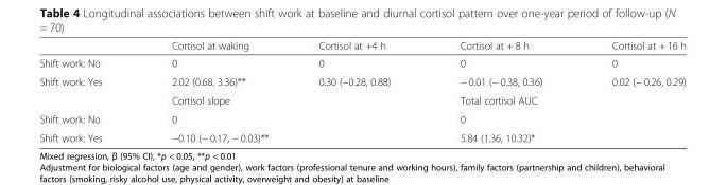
<table><thead><tr><td></td><td>Cortisol at waking</td><td>Cortisol at +4 h</td><td>Cortisol at + 8 h</td><td>Cortisol at + 16 h</td></tr></thead><tbody><tr><td>Shift work: No</td><td>0</td><td>0</td><td>0</td><td>0</td></tr><tr><td rowspan="2">Shift work: Yes</td><td>2.02 (0.68, 3.36)**</td><td>0.30 (−0.28, 0.88)</td><td>− 0.01 (− 0.38, 0.36)</td><td>0.02 (− 0.26, 0.29)</td></tr><tr><td colspan="2">Cortisol slope</td><td colspan="2">Total cortisol AUC</td></tr><tr><td>Shift work: No</td><td colspan="2">0</td><td colspan="2">0</td></tr><tr><td>Shift work: Yes</td><td colspan="2">−0.10 (− 0.17, − 0.03)**</td><td colspan="2">5.84 (1.36, 10.32)*</td></tr></tbody></table>